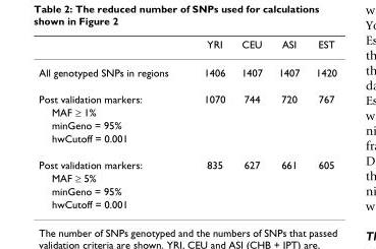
<table><thead><tr><td></td><td>YRI</td><td>CEU</td><td>ASI</td><td>EST</td></tr></thead><tbody><tr><td>All genotyped SNPs in regions</td><td>1406</td><td>1407</td><td>1407</td><td>1420</td></tr><tr><td>Post validation markers:</td><td>1070</td><td>744</td><td>720</td><td>767</td></tr><tr><td colspan="5">MAF ≥ 1%</td></tr><tr><td colspan="5">minGeno = 95%</td></tr><tr><td colspan="5">hwCutoff = 0.001</td></tr><tr><td>Post validation markers:</td><td>835</td><td>627</td><td>661</td><td>605</td></tr><tr><td colspan="5">MAF ≥ 5%</td></tr><tr><td colspan="5">minGeno = 95%</td></tr><tr><td>hwCutoff = 0.001</td><td></td><td></td><td></td><td></td></tr></tbody></table>